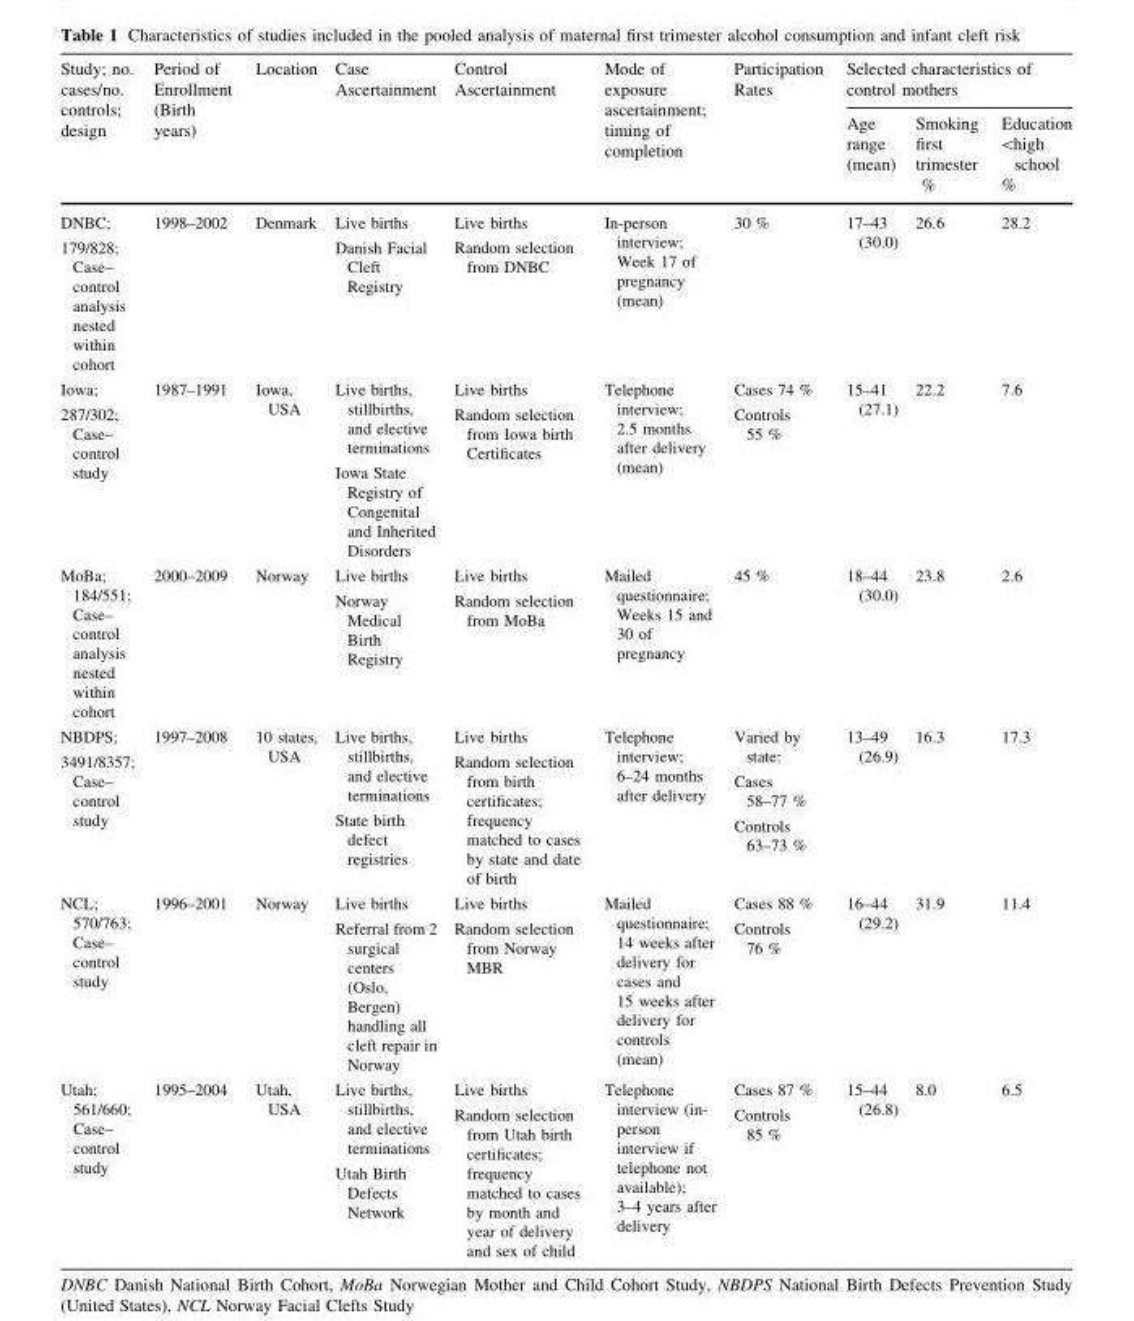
<table><thead><tr><td rowspan="2">Study; no. cases/no. controls; design</td><td rowspan="2">Period of Enrollment (Birth years)</td><td rowspan="2">Location</td><td rowspan="2">Case Ascertainment</td><td rowspan="2">Control Ascertainment</td><td rowspan="2">Mode of exposure ascertainment; timing of completion</td><td rowspan="2">Participation Rates</td><td colspan="3">Selected characteristics of control mothers</td></tr><tr><td>Age range (mean)</td><td>Smoking first trimester %</td><td>Education &lt;high school %</td></tr></thead><tbody><tr><td>DNBC; 179/828; Case– control analysis nested within cohort</td><td>1998–2002</td><td>Denmark</td><td>Live births Danish Facial Cleft Registry</td><td>Live births Random selection from DNBC</td><td>In-person interview; Week 17 of pregnancy (mean)</td><td>30 %</td><td>17–43 (30.0)</td><td>26.6</td><td>28.2</td></tr><tr><td>Iowa; 287/302; Case– control study</td><td>1987–1991</td><td>Iowa, USA</td><td>Live births, stillbirths, and elective terminations Iowa State Registry of Congenital and Inherited Disorders</td><td>Live births Random selection from Iowa birth Certificates</td><td>Telephone interview; 2.5 months after delivery (mean)</td><td>Cases 74 % Controls 55 %</td><td>15–41 (27.1)</td><td>22.2</td><td>7.6</td></tr><tr><td>MoBa; 184/551; Case– control analysis nested within cohort</td><td>2000–2009</td><td>Norway</td><td>Live births Norway Medical Birth Registry</td><td>Live births Random selection from MoBa</td><td>Mailed questionnaire; Weeks 15 and 30 of pregnancy</td><td>45 %</td><td>18–44 (30.0)</td><td>23.8</td><td>2.6</td></tr><tr><td>NBDPS; 3491/8357; Case– control study</td><td>1997–2008</td><td>10 states, USA</td><td>Live births, stillbirths, and elective terminations State birth defect registries</td><td>Live births Random selection from birth certificates; frequency matched to cases by state and date of birth</td><td>Telephone interview; 6–24 months after delivery</td><td>Varied by state: Cases 58–77 % Controls 63–73 %</td><td>13–49 (26.9)</td><td>16.3</td><td>17.3</td></tr><tr><td>NCL; 570/763; Case– control study</td><td>1996–2001</td><td>Norway</td><td>Live births Referral from 2 surgical centers (Oslo, Bergen) handling all cleft repair in Norway</td><td>Live births Random selection from Norway MBR</td><td>Mailed questionnaire; 14 weeks after delivery for cases and 15 weeks after delivery for controls (mean)</td><td>Cases 88 % Controls 76 %</td><td>16–44 (29.2)</td><td>31.9</td><td>11.4</td></tr><tr><td>Utah; 561/660; Case– control study</td><td>1995–2004</td><td>Utah, USA</td><td>Live births, stillbirths, and elective terminations Utah Birth Defects Network</td><td>Live births Random selection from Utah birth certificates; frequency matched to cases by month and year of delivery and sex of child</td><td>Telephone interview (in- person interview if telephone not available); 3–4 years after delivery</td><td>Cases 87 % Controls 85 %</td><td>15–44 (26.8)</td><td>8.0</td><td>6.5</td></tr></tbody></table>